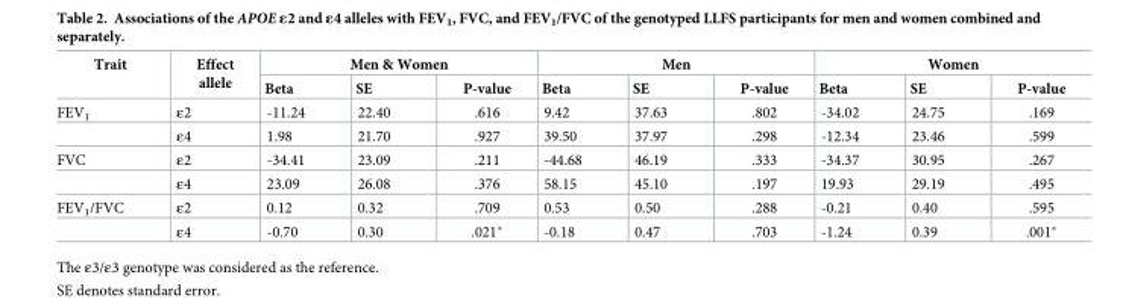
<table><thead><tr><td rowspan="2">Trait</td><td rowspan="2">Effect allele</td><td colspan="3">Men &amp; Women</td><td colspan="3">Men</td><td colspan="3">Women</td></tr><tr><td>Beta</td><td>SE</td><td>P-value</td><td>Beta</td><td>SE</td><td>P-value</td><td>Beta</td><td>SE</td><td>P-value</td></tr></thead><tbody><tr><td rowspan="2">FEV<sub>1</sub></td><td>ε2</td><td>-11.24</td><td>22.40</td><td>.616</td><td>9.42</td><td>37.63</td><td>.802</td><td>-34.02</td><td>24.75</td><td>.169</td></tr><tr><td>ε4</td><td>1.98</td><td>21.70</td><td>.927</td><td>39.50</td><td>37.97</td><td>.298</td><td>-12.34</td><td>23.46</td><td>.599</td></tr><tr><td rowspan="2">FVC</td><td>ε2</td><td>-34.41</td><td>23.09</td><td>.211</td><td>-44.68</td><td>46.19</td><td>.333</td><td>-34.37</td><td>30.95</td><td>.267</td></tr><tr><td>ε4</td><td>23.09</td><td>26.08</td><td>.376</td><td>58.15</td><td>45.10</td><td>.197</td><td>19.93</td><td>29.19</td><td>.495</td></tr><tr><td rowspan="2">FEV<sub>1</sub>/FVC</td><td>ε2</td><td>0.12</td><td>0.32</td><td>.709</td><td>0.53</td><td>0.50</td><td>.288</td><td>-0.21</td><td>0.40</td><td>.595</td></tr><tr><td>ε4</td><td>-0.70</td><td>0.30</td><td>.021*</td><td>-0.18</td><td>0.47</td><td>.703</td><td>-1.24</td><td>0.39</td><td>.001*</td></tr></tbody></table>